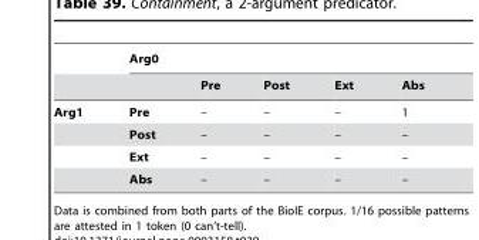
<table><thead><tr><td rowspan="2"></td><td colspan="5">Arg0</td></tr><tr><td></td><td>Pre</td><td>Post</td><td>Ext</td><td>Abs</td></tr></thead><tbody><tr><td rowspan="4">Arg1</td><td>Pre</td><td>–</td><td>–</td><td>–</td><td>1</td></tr><tr><td>Post</td><td>–</td><td>–</td><td>–</td><td>–</td></tr><tr><td>Ext</td><td>–</td><td>–</td><td>–</td><td>–</td></tr><tr><td>Abs</td><td>–</td><td>–</td><td>–</td><td>–</td></tr></tbody></table>